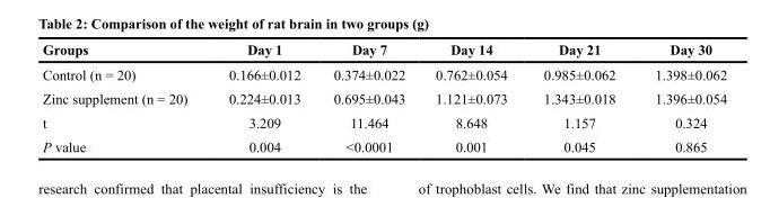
<table><thead><tr><td>Groups</td><td>Day 1</td><td>Day 7</td><td>Day 14</td><td>Day 21</td><td>Day 30</td></tr></thead><tbody><tr><td>Control (n = 20)</td><td>0.166±0.012</td><td>0.374±0.022</td><td>0.762±0.054</td><td>0.985±0.062</td><td>1.398±0.062</td></tr><tr><td>Zinc supplement (n = 20)</td><td>0.224±0.013</td><td>0.695±0.043</td><td>1.121±0.073</td><td>1.343±0.018</td><td>1.396±0.054</td></tr><tr><td>t</td><td>3.209</td><td>11.464</td><td>8.648</td><td>1.157</td><td>0.324</td></tr><tr><td>P value</td><td>0.004</td><td>&lt;0.0001</td><td>0.001</td><td>0.045</td><td>0.865</td></tr></tbody></table>